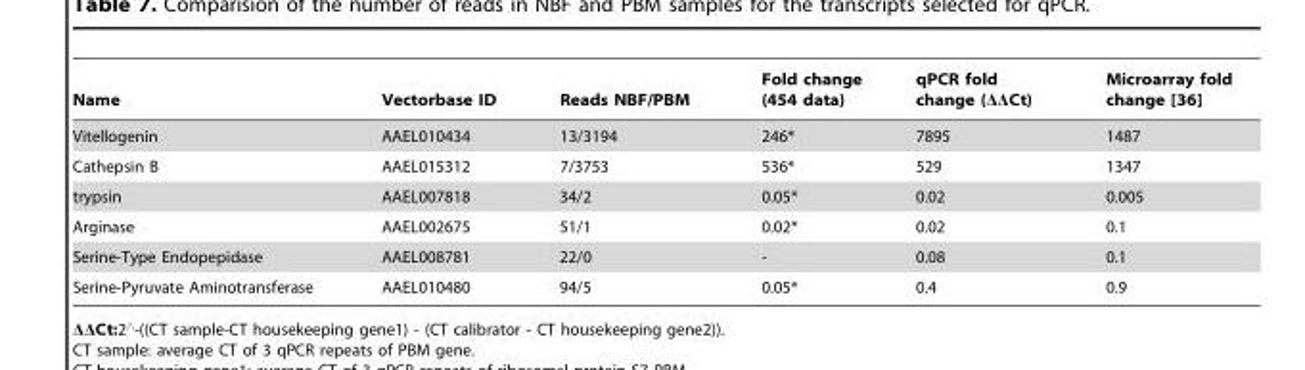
<table><thead><tr><td>Name</td><td>Vectorbase ID</td><td>Reads NBF/PBM</td><td>Fold change (454 data)</td><td>qPCR fold change (ΔΔCt)</td><td>Microarray fold change [36]</td></tr></thead><tbody><tr><td>Vitellogenin</td><td>AAEL010434</td><td>13/3194</td><td>246*</td><td>7895</td><td>1487</td></tr><tr><td>Cathepsin B</td><td>AAEL015312</td><td>7/3753</td><td>536*</td><td>529</td><td>1347</td></tr><tr><td>trypsin</td><td>AAEL007818</td><td>34/2</td><td>0.05*</td><td>0.02</td><td>0.005</td></tr><tr><td>Arginase</td><td>AAEL002675</td><td>51/1</td><td>0.02*</td><td>0.02</td><td>0.1</td></tr><tr><td>Serine-Type Endopepidase</td><td>AAEL008781</td><td>22/0</td><td>-</td><td>0.08</td><td>0.1</td></tr><tr><td>Serine-Pyruvate Aminotransferase</td><td>AAEL010480</td><td>94/5</td><td>0.05*</td><td>0.4</td><td>0.9</td></tr></tbody></table>